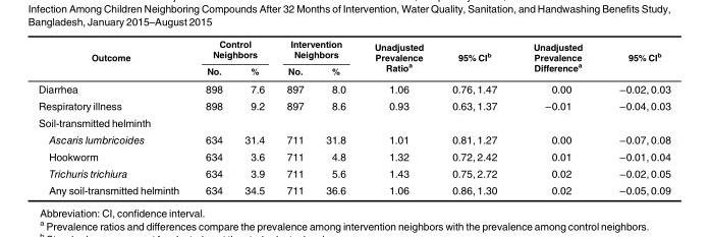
<table><thead><tr><td rowspan="2">Outcome</td><td colspan="2">Control Neighbors</td><td colspan="2">Intervention Neighbors</td><td rowspan="2">Unadjusted Prevalence Ratio<sup>a</sup></td><td rowspan="2">95% CI<sup>b</sup></td><td rowspan="2">Unadjusted Prevalence Difference<sup>a</sup></td><td rowspan="2">95% CI<sup>b</sup></td></tr><tr><td>No.</td><td>%</td><td>No.</td><td>%</td></tr></thead><tbody><tr><td>Diarrhea</td><td>898</td><td>7.6</td><td>897</td><td>8.0</td><td>1.06</td><td>0.76, 1.47</td><td>0.00</td><td>−0.02, 0.03</td></tr><tr><td>Respiratory illness</td><td>898</td><td>9.2</td><td>897</td><td>8.6</td><td>0.93</td><td>0.63, 1.37</td><td>−0.01</td><td>−0.04, 0.03</td></tr><tr><td colspan="9">Soil-transmitted helminth</td></tr><tr><td>Ascaris lumbricoides</td><td>634</td><td>31.4</td><td>711</td><td>31.8</td><td>1.01</td><td>0.81, 1.27</td><td>0.00</td><td>−0.07, 0.08</td></tr><tr><td>Hookworm</td><td>634</td><td>3.6</td><td>711</td><td>4.8</td><td>1.32</td><td>0.72, 2.42</td><td>0.01</td><td>−0.01, 0.04</td></tr><tr><td>Trichuris trichiura</td><td>634</td><td>3.9</td><td>711</td><td>5.6</td><td>1.43</td><td>0.75, 2.72</td><td>0.02</td><td>−0.02, 0.05</td></tr><tr><td>Any soil-transmitted helminth</td><td>634</td><td>34.5</td><td>711</td><td>36.6</td><td>1.06</td><td>0.86, 1.30</td><td>0.02</td><td>−0.05, 0.09</td></tr></tbody></table>